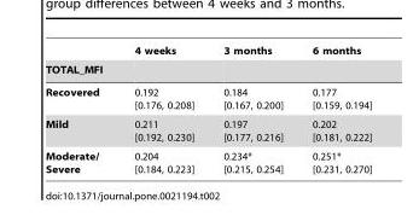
<table><thead><tr><td rowspan="2">TOTAL_MFI</td><td rowspan="2">4 weeks</td><td rowspan="2">3 months</td><td rowspan="2">6 months</td></tr><tr></tr></thead><tbody><tr><td>Recovered</td><td>0.192 [0.176, 0.208]</td><td>0.184 [0.167, 0.200]</td><td>0.177 [0.159, 0.194]</td></tr><tr><td>Mild</td><td>0.211 [0.192, 0.230]</td><td>0.197 [0.177, 0.216]</td><td>0.202 [0.181, 0.222]</td></tr><tr><td>Moderate/ Severe</td><td>0.204 [0.184, 0.223]</td><td>0.234* [0.215, 0.254]</td><td>0.251* [0.231, 0.270]</td></tr></tbody></table>